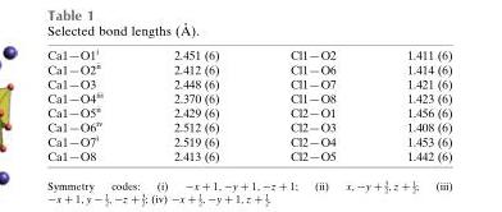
<table><tbody><tr><td>Ca1—O1<sup>i</sup></td><td>2.451 (6)</td><td>Cl1—O2</td><td>1.411 (6)</td></tr><tr><td>Ca1—O2<sup>ii</sup></td><td>2.412 (6)</td><td>Cl1—O6</td><td>1.414 (6)</td></tr><tr><td>Ca1—O3</td><td>2.448 (6)</td><td>Cl1—O7</td><td>1.421 (6)</td></tr><tr><td>Ca1—O4<sup>iii</sup></td><td>2.370 (6)</td><td>Cl1—O8</td><td>1.423 (6)</td></tr><tr><td>Ca1—O5<sup>ii</sup></td><td>2.429 (6)</td><td>Cl2—O1</td><td>1.456 (6)</td></tr><tr><td>Ca1—O6<sup>iv</sup></td><td>2.512 (6)</td><td>Cl2—O3</td><td>1.408 (6)</td></tr><tr><td>Ca1—O7<sup>i</sup></td><td>2.519 (6)</td><td>Cl2—O4</td><td>1.453 (6)</td></tr><tr><td>Ca1—O8</td><td>2.413 (6)</td><td>Cl2—O5</td><td>1.442 (6)</td></tr></tbody></table>